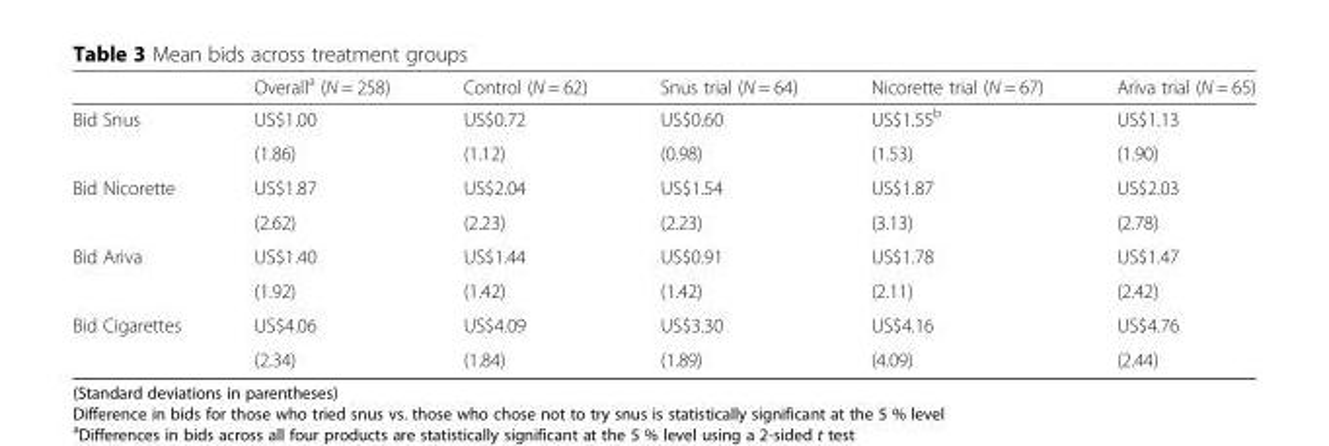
<table><thead><tr><td></td><td>Overall<sup>a</sup> (N = 258)</td><td>Control (N = 62)</td><td>Snus trial (N = 64)</td><td>Nicorette trial (N = 67)</td><td>Ariva trial (N = 65)</td></tr></thead><tbody><tr><td rowspan="2">Bid Snus</td><td>US$1.00</td><td>US$0.72</td><td>US$0.60</td><td>US$1.55<sup>b</sup></td><td>US$1.13</td></tr><tr><td>(1.86)</td><td>(1.12)</td><td>(0.98)</td><td>(1.53)</td><td>(1.90)</td></tr><tr><td rowspan="2">Bid Nicorette</td><td>US$1.87</td><td>US$2.04</td><td>US$1.54</td><td>US$1.87</td><td>US$2.03</td></tr><tr><td>(2.62)</td><td>(2.23)</td><td>(2.23)</td><td>(3.13)</td><td>(2.78)</td></tr><tr><td rowspan="2">Bid Ariva</td><td>US$1.40</td><td>US$1.44</td><td>US$0.91</td><td>US$1.78</td><td>US$1.47</td></tr><tr><td>(1.92)</td><td>(1.42)</td><td>(1.42)</td><td>(2.11)</td><td>(2.42)</td></tr><tr><td rowspan="2">Bid Cigarettes</td><td>US$4.06</td><td>US$4.09</td><td>US$3.30</td><td>US$4.16</td><td>US$4.76</td></tr><tr><td>(2.34)</td><td>(1.84)</td><td>(1.89)</td><td>(4.09)</td><td>(2.44)</td></tr></tbody></table>